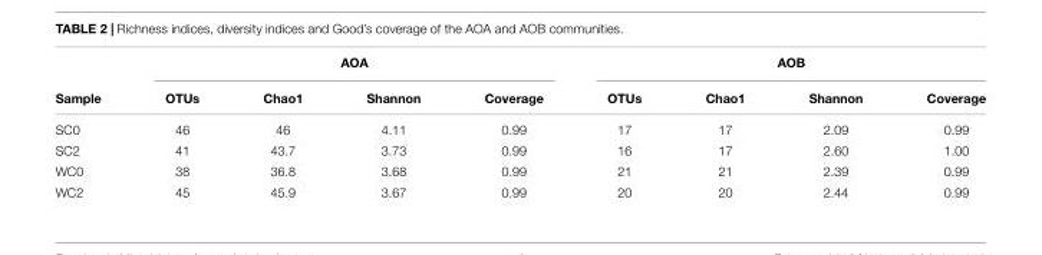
<table><thead><tr><td rowspan="2">Sample</td><td colspan="4">AOA</td><td colspan="4">AOB</td></tr><tr><td>OTUs</td><td>Chao1</td><td>Shannon</td><td>Coverage</td><td>OTUs</td><td>Chao1</td><td>Shannon</td><td>Coverage</td></tr></thead><tbody><tr><td>SC0</td><td>46</td><td>46</td><td>4.11</td><td>0.99</td><td>17</td><td>17</td><td>2.09</td><td>0.99</td></tr><tr><td>SC2</td><td>41</td><td>43.7</td><td>3.73</td><td>0.99</td><td>16</td><td>17</td><td>2.60</td><td>1.00</td></tr><tr><td>WC0</td><td>38</td><td>36.8</td><td>3.68</td><td>0.99</td><td>21</td><td>21</td><td>2.39</td><td>0.99</td></tr><tr><td>WC2</td><td>45</td><td>45.9</td><td>3.67</td><td>0.99</td><td>20</td><td>20</td><td>2.44</td><td>0.99</td></tr></tbody></table>